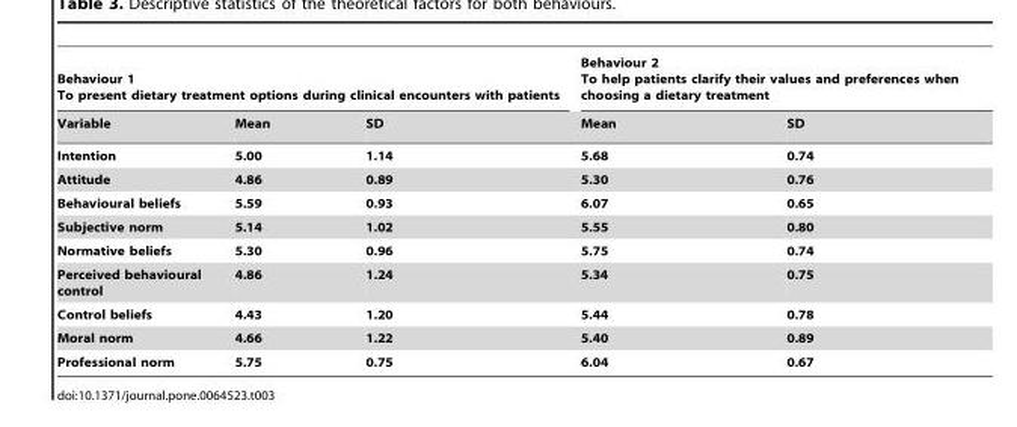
<table><thead><tr><td colspan="3">Behaviour 1 To present dietary treatment options during clinical encounters with patients</td><td colspan="2">Behaviour 2 To help patients clarify their values and preferences when choosing a dietary treatment</td></tr><tr><td>Variable</td><td>Mean</td><td>SD</td><td>Mean</td><td>SD</td></tr></thead><tbody><tr><td>Intention</td><td>5.00</td><td>1.14</td><td>5.68</td><td>0.74</td></tr><tr><td>Attitude</td><td>4.86</td><td>0.89</td><td>5.30</td><td>0.76</td></tr><tr><td>Behavioural beliefs</td><td>5.59</td><td>0.93</td><td>6.07</td><td>0.65</td></tr><tr><td>Subjective norm</td><td>5.14</td><td>1.02</td><td>5.55</td><td>0.80</td></tr><tr><td>Normative beliefs</td><td>5.30</td><td>0.96</td><td>5.75</td><td>0.74</td></tr><tr><td>Perceived behavioural control</td><td>4.86</td><td>1.24</td><td>5.34</td><td>0.75</td></tr><tr><td>Control beliefs</td><td>4.43</td><td>1.20</td><td>5.44</td><td>0.78</td></tr><tr><td>Moral norm</td><td>4.66</td><td>1.22</td><td>5.40</td><td>0.89</td></tr><tr><td>Professional norm</td><td>5.75</td><td>0.75</td><td>6.04</td><td>0.67</td></tr></tbody></table>